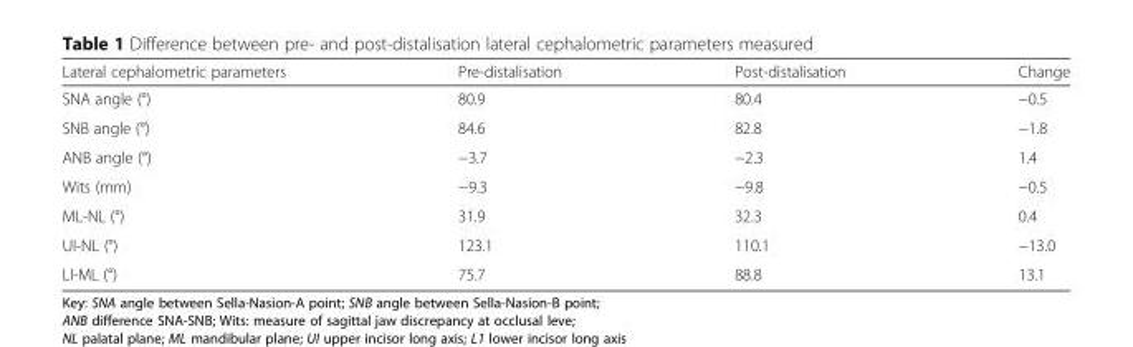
<table><thead><tr><td>Lateral cephalometric parameters</td><td>Pre-distalisation</td><td>Post-distalisation</td><td>Change</td></tr></thead><tbody><tr><td>SNA angle (°)</td><td>80.9</td><td>80.4</td><td>−0.5</td></tr><tr><td>SNB angle (°)</td><td>84.6</td><td>82.8</td><td>−1.8</td></tr><tr><td>ANB angle (°)</td><td>−3.7</td><td>−2.3</td><td>1.4</td></tr><tr><td>Wits (mm)</td><td>−9.3</td><td>−9.8</td><td>−0.5</td></tr><tr><td>ML-NL (°)</td><td>31.9</td><td>32.3</td><td>0.4</td></tr><tr><td>UI-NL (°)</td><td>123.1</td><td>110.1</td><td>−13.0</td></tr><tr><td>LI-ML (°)</td><td>75.7</td><td>88.8</td><td>13.1</td></tr></tbody></table>